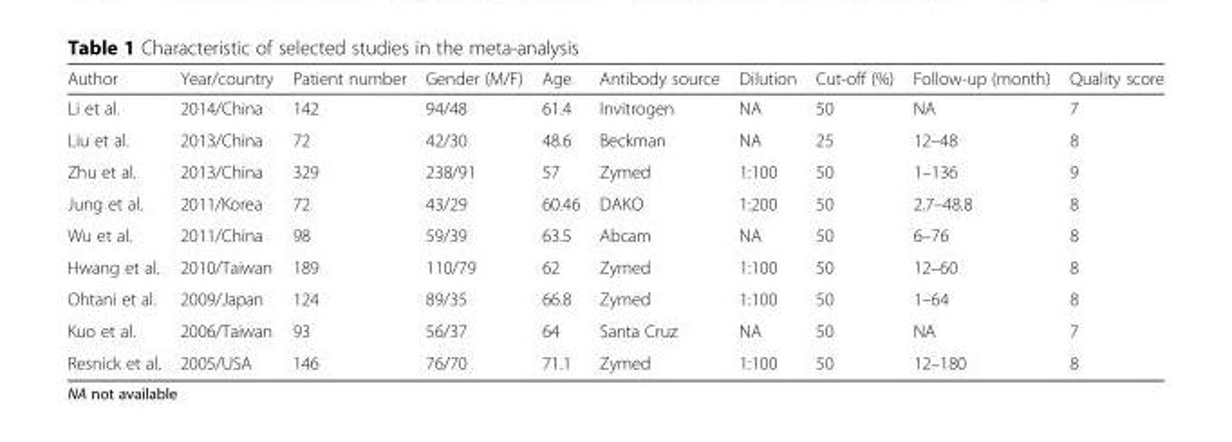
<table><thead><tr><td>Author</td><td>Year/country</td><td>Patient number</td><td>Gender (M/F)</td><td>Age</td><td>Antibody source</td><td>Dilution</td><td>Cut-off (%)</td><td>Follow-up (month)</td><td>Quality score</td></tr></thead><tbody><tr><td>Li et al.</td><td>2014/China</td><td>142</td><td>94/48</td><td>61.4</td><td>Invitrogen</td><td>NA</td><td>50</td><td>NA</td><td>7</td></tr><tr><td>Liu et al.</td><td>2013/China</td><td>72</td><td>42/30</td><td>48.6</td><td>Beckman</td><td>NA</td><td>25</td><td>12–48</td><td>8</td></tr><tr><td>Zhu et al.</td><td>2013/China</td><td>329</td><td>238/91</td><td>57</td><td>Zymed</td><td>1:100</td><td>50</td><td>1–136</td><td>9</td></tr><tr><td>Jung et al.</td><td>2011/Korea</td><td>72</td><td>43/29</td><td>60.46</td><td>DAKO</td><td>1:200</td><td>50</td><td>2.7–48.8</td><td>8</td></tr><tr><td>Wu et al.</td><td>2011/China</td><td>98</td><td>59/39</td><td>63.5</td><td>Abcam</td><td>NA</td><td>50</td><td>6–76</td><td>8</td></tr><tr><td>Hwang et al.</td><td>2010/Taiwan</td><td>189</td><td>110/79</td><td>62</td><td>Zymed</td><td>1:100</td><td>50</td><td>12–60</td><td>8</td></tr><tr><td>Ohtani et al.</td><td>2009/Japan</td><td>124</td><td>89/35</td><td>66.8</td><td>Zymed</td><td>1:100</td><td>50</td><td>1–64</td><td>8</td></tr><tr><td>Kuo et al.</td><td>2006/Taiwan</td><td>93</td><td>56/37</td><td>64</td><td>Santa Cruz</td><td>NA</td><td>50</td><td>NA</td><td>7</td></tr><tr><td>Resnick et al.</td><td>2005/USA</td><td>146</td><td>76/70</td><td>71.1</td><td>Zymed</td><td>1:100</td><td>50</td><td>12–180</td><td>8</td></tr></tbody></table>